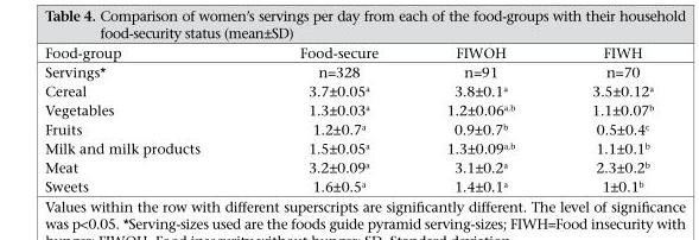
<table><thead><tr><td>Food-group</td><td>Food-secure</td><td>FIWOH</td><td>FIWH</td></tr></thead><tbody><tr><td>Servings*</td><td>n=328</td><td>n=91</td><td>n=70</td></tr><tr><td>Cereal</td><td>3.7±0.05<sup>a</sup></td><td>3.8±0.1<sup>a</sup></td><td>3.5±0.12<sup>a</sup></td></tr><tr><td>Vegetables</td><td>1.3±0.03<sup>a</sup></td><td>1.2±0.06<sup>a,b</sup></td><td>1.1±0.07<sup>b</sup></td></tr><tr><td>Fruits</td><td>1.2±0.7<sup>a</sup></td><td>0.9±0.7<sup>b</sup></td><td>0.5±0.4<sup>c</sup></td></tr><tr><td>Milk and milk products</td><td>1.5±0.05<sup>a</sup></td><td>1.3±0.09<sup>a,b</sup></td><td>1.1±0.1<sup>b</sup></td></tr><tr><td>Meat</td><td>3.2±0.09<sup>a</sup></td><td>3.1±0.2<sup>a</sup></td><td>2.3±0.2<sup>b</sup></td></tr><tr><td>Sweets</td><td>1.6±0.5<sup>a</sup></td><td>1.4±0.1<sup>a</sup></td><td>1±0.1<sup>b</sup></td></tr></tbody></table>